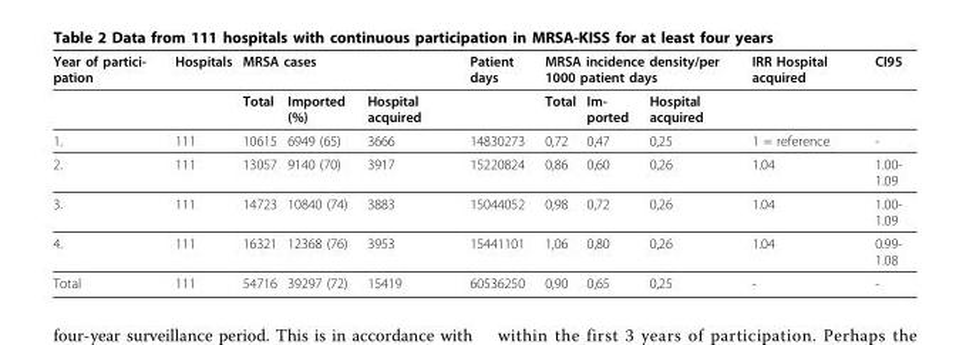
<table><thead><tr><td rowspan="2">Year of partici- pation</td><td rowspan="2">Hospitals</td><td colspan="3">MRSA cases</td><td rowspan="2">Patient days</td><td colspan="3">MRSA incidence density/per 1000 patient days</td><td rowspan="2">IRR Hospital acquired</td><td rowspan="2">CI95</td></tr><tr><td>Total</td><td>Imported (%)</td><td>Hospital acquired</td><td>Total</td><td>Im- ported</td><td>Hospital acquired</td></tr></thead><tbody><tr><td>1.</td><td>111</td><td>10615</td><td>6949 (65)</td><td>3666</td><td>14830273</td><td>0,72</td><td>0,47</td><td>0,25</td><td>1 = reference</td><td>-</td></tr><tr><td>2.</td><td>111</td><td>13057</td><td>9140 (70)</td><td>3917</td><td>15220824</td><td>0,86</td><td>0,60</td><td>0,26</td><td>1.04</td><td>1.00- 1.09</td></tr><tr><td>3.</td><td>111</td><td>14723</td><td>10840 (74)</td><td>3883</td><td>15044052</td><td>0,98</td><td>0,72</td><td>0,26</td><td>1.04</td><td>1.00- 1.09</td></tr><tr><td>4.</td><td>111</td><td>16321</td><td>12368 (76)</td><td>3953</td><td>15441101</td><td>1,06</td><td>0,80</td><td>0,26</td><td>1.04</td><td>0.99- 1.08</td></tr><tr><td>Total</td><td>111</td><td>54716</td><td>39297 (72)</td><td>15419</td><td>60536250</td><td>0,90</td><td>0,65</td><td>0,25</td><td>-</td><td>-</td></tr></tbody></table>